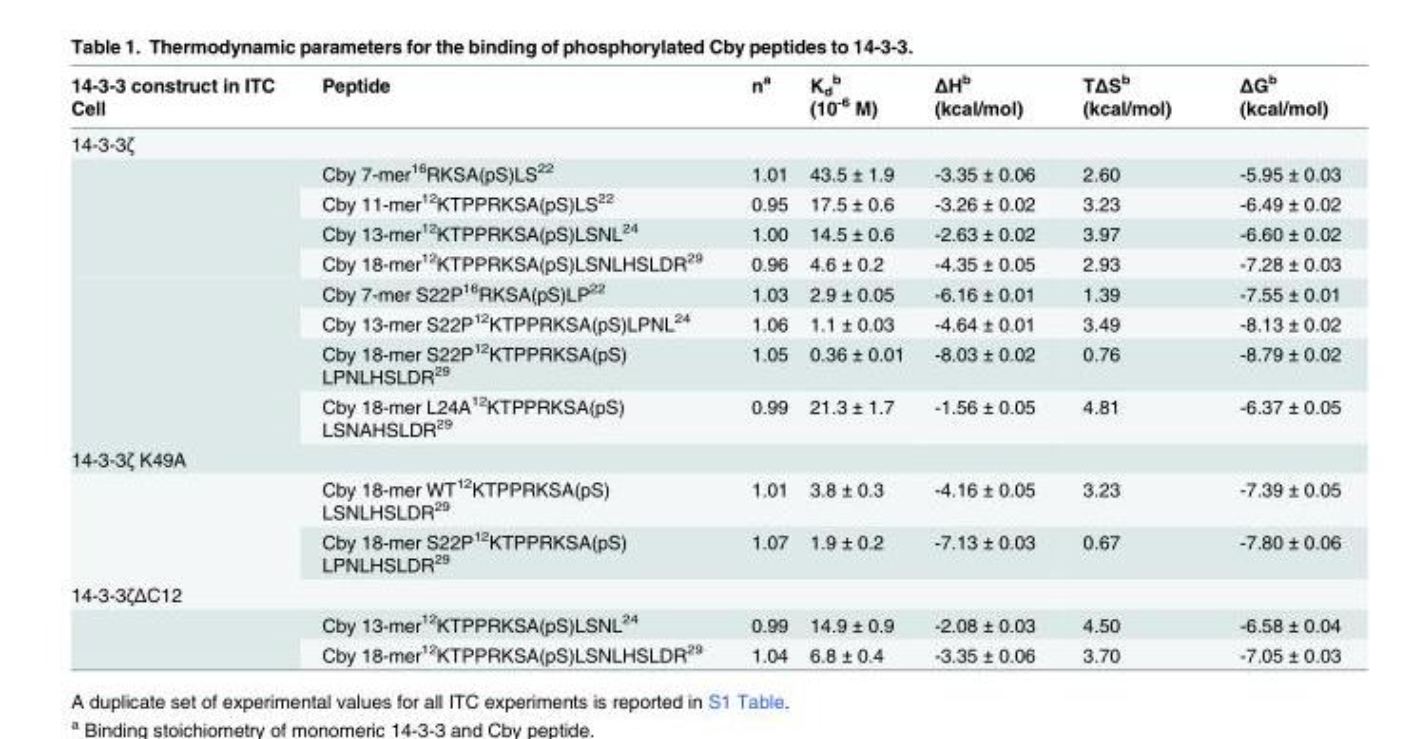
<table><thead><tr><td>14-3-3 construct in ITC Cell</td><td>Peptide</td><td>n<sup>a</sup></td><td>K<sub>d</sub> <sup>b</sup> (10<sup>-6</sup> M)</td><td>ΔH<sup>b</sup> (kcal/mol)</td><td>TΔS<sup>b</sup> (kcal/mol)</td><td>ΔG<sup>b</sup> (kcal/mol)</td></tr></thead><tbody><tr><td colspan="7">14-3-3ζ</td></tr><tr><td rowspan="4"></td><td>Cby 7-mer<sup>16</sup>RKSA(pS)LS<sup>22</sup></td><td>1.01</td><td>43.5 ± 1.9</td><td>-3.35 ± 0.06</td><td>2.60</td><td>-5.95 ± 0.03</td></tr><tr><td>Cby 11-mer<sup>12</sup>KTPPRKSA(pS)LS<sup>22</sup></td><td>0.95</td><td>17.5 ± 0.6</td><td>-3.26 ± 0.02</td><td>3.23</td><td>-6.49 ± 0.02</td></tr><tr><td>Cby 13-mer<sup>12</sup>KTPPRKSA(pS)LSNL<sup>24</sup></td><td>1.00</td><td>14.5 ± 0.6</td><td>-2.63 ± 0.02</td><td>3.97</td><td>-6.60 ± 0.02</td></tr><tr><td>Cby 18-mer<sup>12</sup>KTPPRKSA(pS)LSNLHSLDR<sup>29</sup></td><td>0.96</td><td>4.6 ± 0.2</td><td>-4.35 ± 0.05</td><td>2.93</td><td>-7.28 ± 0.03</td></tr><tr><td rowspan="4"></td><td>Cby 7-mer S22P<sup>16</sup>RKSA(pS)LP<sup>22</sup></td><td>1.03</td><td>2.9 ± 0.05</td><td>-6.16 ± 0.01</td><td>1.39</td><td>-7.55 ± 0.01</td></tr><tr><td>Cby 13-mer S22P<sup>12</sup>KTPPRKSA(pS)LPNL<sup>24</sup></td><td>1.06</td><td>1.1 ± 0.03</td><td>-4.64 ± 0.01</td><td>3.49</td><td>-8.13 ± 0.02</td></tr><tr><td>Cby 18-mer S22P<sup>12</sup>KTPPRKSA(pS) LPNLHSLDR<sup>29</sup></td><td>1.05</td><td>0.36 ± 0.01</td><td>-8.03 ± 0.02</td><td>0.76</td><td>-8.79 ± 0.02</td></tr><tr><td>Cby 18-mer L24A<sup>12</sup>KTPPRKSA(pS) LSNAHSLDR<sup>29</sup></td><td>0.99</td><td>21.3 ± 1.7</td><td>-1.56 ± 0.05</td><td>4.81</td><td>-6.37 ± 0.05</td></tr><tr><td colspan="7">14-3-3ζ K49A</td></tr><tr><td rowspan="2"></td><td>Cby 18-mer WT<sup>12</sup>KTPPRKSA(pS) LSNLHSLDR<sup>29</sup></td><td>1.01</td><td>3.8 ± 0.3</td><td>-4.16 ± 0.05</td><td>3.23</td><td>-7.39 ± 0.05</td></tr><tr><td>Cby 18-mer S22P<sup>12</sup>KTPPRKSA(pS) LPNLHSLDR<sup>29</sup></td><td>1.07</td><td>1.9 ± 0.2</td><td>-7.13 ± 0.03</td><td>0.67</td><td>-7.80 ± 0.06</td></tr><tr><td colspan="7">14-3-3ζΔC12</td></tr><tr><td rowspan="2"></td><td>Cby 13-mer<sup>12</sup>KTPPRKSA(pS)LSNL<sup>24</sup></td><td>0.99</td><td>14.9 ± 0.9</td><td>-2.08 ± 0.03</td><td>4.50</td><td>-6.58 ± 0.04</td></tr><tr><td>Cby 18-mer<sup>12</sup>KTPPRKSA(pS)LSNLHSLDR<sup>29</sup></td><td>1.04</td><td>6.8 ± 0.4</td><td>-3.35 ± 0.06</td><td>3.70</td><td>-7.05 ± 0.03</td></tr></tbody></table>